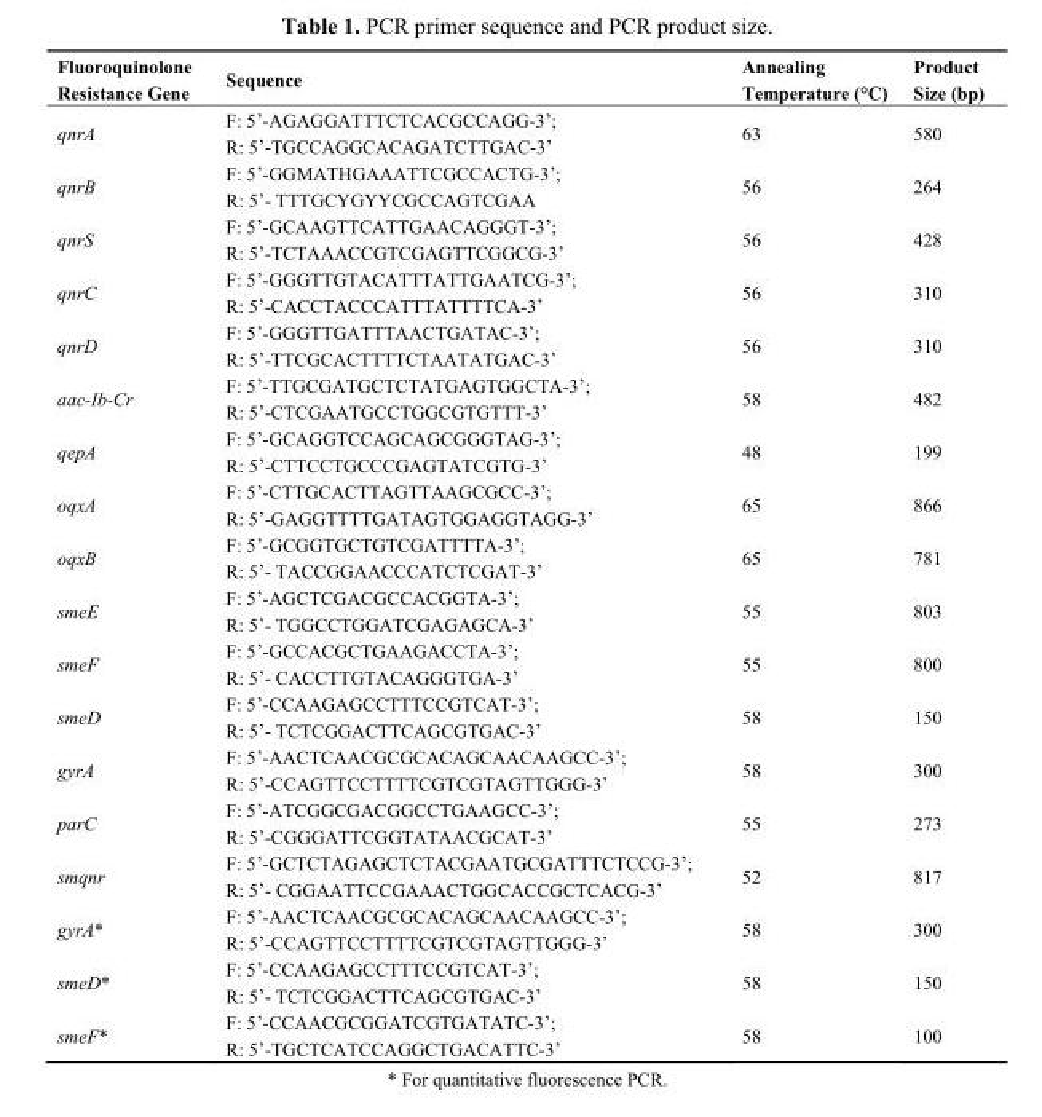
<table><thead><tr><td>Fluoroquinolone Resistance Gene</td><td>Sequence</td><td>Annealing Temperature (°C)</td><td>Product Size (bp)</td></tr></thead><tbody><tr><td>qnrA</td><td>F: 5’-AGAGGATTTCTCACGCCAGG-3’; R: 5’-TGCCAGGCACAGATCTTGAC-3’</td><td>63</td><td>580</td></tr><tr><td>qnrB</td><td>F: 5’-GGMATHGAAATTCGCCACTG-3’; R: 5’- TTTGCYGYYCGCCAGTCGAA</td><td>56</td><td>264</td></tr><tr><td>qnrS</td><td>F: 5’-GCAAGTTCATTGAACAGGGT-3’; R: 5’-TCTAAACCGTCGAGTTCGGCG-3’</td><td>56</td><td>428</td></tr><tr><td>qnrC</td><td>F: 5’-GGGTTGTACATTTATTGAATCG-3’; R: 5’-CACCTACCCATTTATTTTCA-3’</td><td>56</td><td>310</td></tr><tr><td>qnrD</td><td>F: 5’-GGGTTGATTTAACTGATAC-3’; R: 5’-TTCGCACTTTTCTAATATGAC-3’</td><td>56</td><td>310</td></tr><tr><td>aac-Ib-Cr</td><td>F: 5’-TTGCGATGCTCTATGAGTGGCTA-3’; R: 5’-CTCGAATGCCTGGCGTGTTT-3’</td><td>58</td><td>482</td></tr><tr><td>qepA</td><td>F: 5’-GCAGGTCCAGCAGCGGGTAG-3’; R: 5’-CTTCCTGCCCGAGTATCGTG-3’</td><td>48</td><td>199</td></tr><tr><td>oqxA</td><td>F: 5’-CTTGCACTTAGTTAAGCGCC-3’; R: 5’-GAGGTTTTGATAGTGGAGGTAGG-3’</td><td>65</td><td>866</td></tr><tr><td>oqxB</td><td>F: 5’-GCGGTGCTGTCGATTTTA-3’; R: 5’- TACCGGAACCCATCTCGAT-3’</td><td>65</td><td>781</td></tr><tr><td>smeE</td><td>F: 5’-AGCTCGACGCCACGGTA-3’; R: 5’- TGGCCTGGATCGAGAGCA-3’</td><td>55</td><td>803</td></tr><tr><td>smeF</td><td>F: 5’-GCCACGCTGAAGACCTA-3’; R: 5’- CACCTTGTACAGGGTGA-3’</td><td>55</td><td>800</td></tr><tr><td>smeD</td><td>F: 5’-CCAAGAGCCTTTCCGTCAT-3’; R: 5’- TCTCGGACTTCAGCGTGAC-3’</td><td>58</td><td>150</td></tr><tr><td>gyrA</td><td>F: 5’-AACTCAACGCGCACAGCAACAAGCC-3’; R: 5’-CCAGTTCCTTTTCGTCGTAGTTGGG-3’</td><td>58</td><td>300</td></tr><tr><td>parC</td><td>F: 5’-ATCGGCGACGGCCTGAAGCC-3’; R: 5’-CGGGATTCGGTATAACGCAT-3’</td><td>55</td><td>273</td></tr><tr><td>smqnr</td><td>F: 5’-GCTCTAGAGCTCTACGAATGCGATTTCTCCG-3’; R: 5’- CGGAATTCCGAAACTGGCACCGCTCACG-3’</td><td>52</td><td>817</td></tr><tr><td>gyrA*</td><td>F: 5’-AACTCAACGCGCACAGCAACAAGCC-3’; R: 5’-CCAGTTCCTTTTCGTCGTAGTTGGG-3’</td><td>58</td><td>300</td></tr><tr><td>smeD*</td><td>F: 5’-CCAAGAGCCTTTCCGTCAT-3’; R: 5’- TCTCGGACTTCAGCGTGAC-3’</td><td>58</td><td>150</td></tr><tr><td>smeF*</td><td>F: 5’-CCAACGCGGATCGTGATATC-3’; R: 5’-TGCTCATCCAGGCTGACATTC-3’</td><td>58</td><td>100</td></tr></tbody></table>